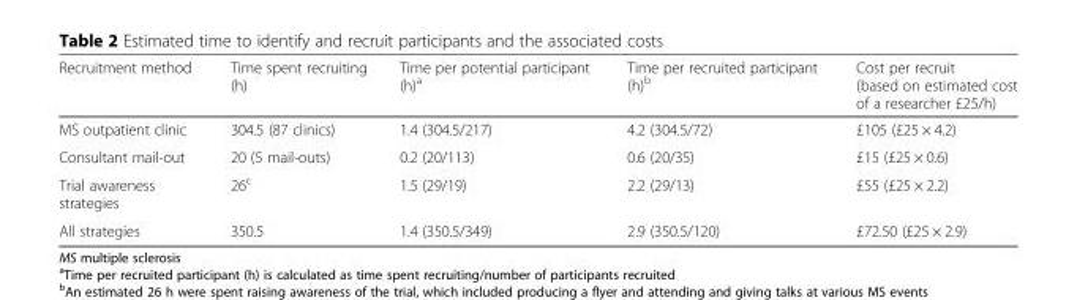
<table><thead><tr><td>Recruitment method</td><td>Time spent recruiting (h)</td><td>Time per potential participant (h)<sup>a</sup></td><td>Time per recruited participant (h)<sup>b</sup></td><td>Cost per recruit (based on estimated cost of a researcher £25/h)</td></tr></thead><tbody><tr><td>MS outpatient clinic</td><td>304.5 (87 clinics)</td><td>1.4 (304.5/217)</td><td>4.2 (304.5/72)</td><td>£105 (£25 × 4.2)</td></tr><tr><td>Consultant mail-out</td><td>20 (5 mail-outs)</td><td>0.2 (20/113)</td><td>0.6 (20/35)</td><td>£15 (£25 × 0.6)</td></tr><tr><td>Trial awareness strategies</td><td>26<sup>c</sup></td><td>1.5 (29/19)</td><td>2.2 (29/13)</td><td>£55 (£25 × 2.2)</td></tr><tr><td>All strategies</td><td>350.5</td><td>1.4 (350.5/349)</td><td>2.9 (350.5/120)</td><td>£72.50 (£25 × 2.9)</td></tr></tbody></table>